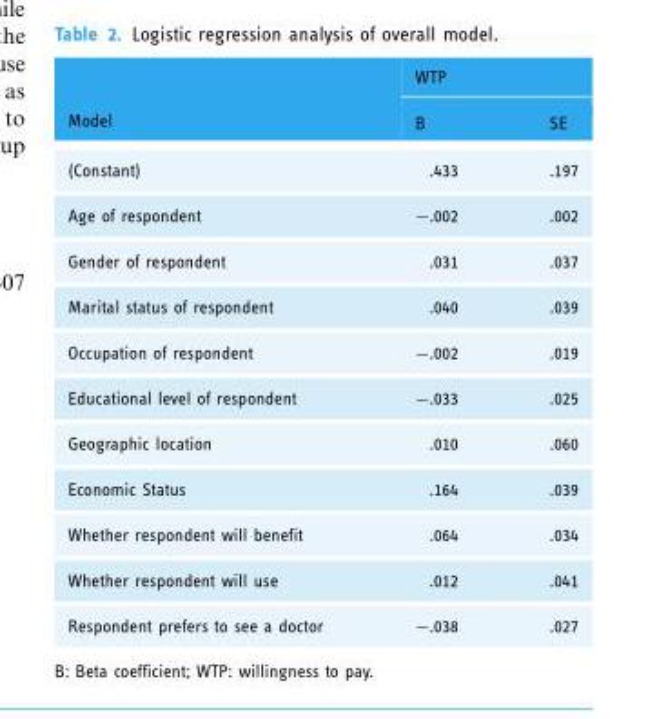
<table><thead><tr><td rowspan="2">Model</td><td colspan="2">WTP</td></tr><tr><td>B</td><td>SE</td></tr></thead><tbody><tr><td>(Constant)</td><td>.433</td><td>.197</td></tr><tr><td>Age of respondent</td><td>−.002</td><td>.002</td></tr><tr><td>Gender of respondent</td><td>.031</td><td>.037</td></tr><tr><td>Marital status of respondent</td><td>.040</td><td>.039</td></tr><tr><td>Occupation of respondent</td><td>−.002</td><td>.019</td></tr><tr><td>Educational level of respondent</td><td>−.033</td><td>.025</td></tr><tr><td>Geographic location</td><td>.010</td><td>.060</td></tr><tr><td>Economic Status</td><td>.164</td><td>.039</td></tr><tr><td>Whether respondent will benefit</td><td>.064</td><td>.034</td></tr><tr><td>Whether respondent will use</td><td>.012</td><td>.041</td></tr><tr><td>Respondent prefers to see a doctor</td><td>−.038</td><td>.027</td></tr></tbody></table>